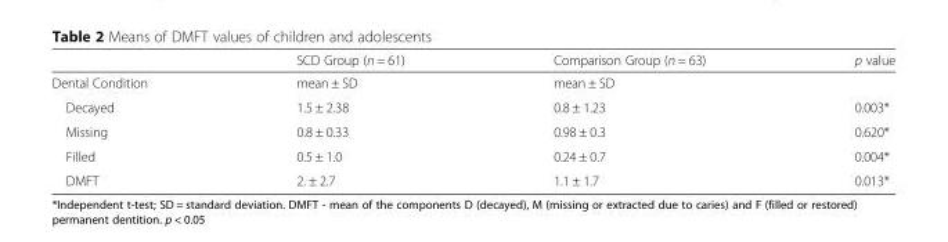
<table><thead><tr><td></td><td>SCD Group (n = 61)</td><td>Comparison Group (n = 63)</td><td>p value</td></tr></thead><tbody><tr><td>Dental Condition</td><td>mean ± SD</td><td>mean ± SD</td><td></td></tr><tr><td>Decayed</td><td>1.5 ± 2.38</td><td>0.8 ± 1.23</td><td>0.003*</td></tr><tr><td>Missing</td><td>0.8 ± 0.33</td><td>0.98 ± 0.3</td><td>0.620*</td></tr><tr><td>Filled</td><td>0.5 ± 1.0</td><td>0.24 ± 0.7</td><td>0.004*</td></tr><tr><td>DMFT</td><td>2. ± 2.7</td><td>1.1 ± 1.7</td><td>0.013*</td></tr></tbody></table>